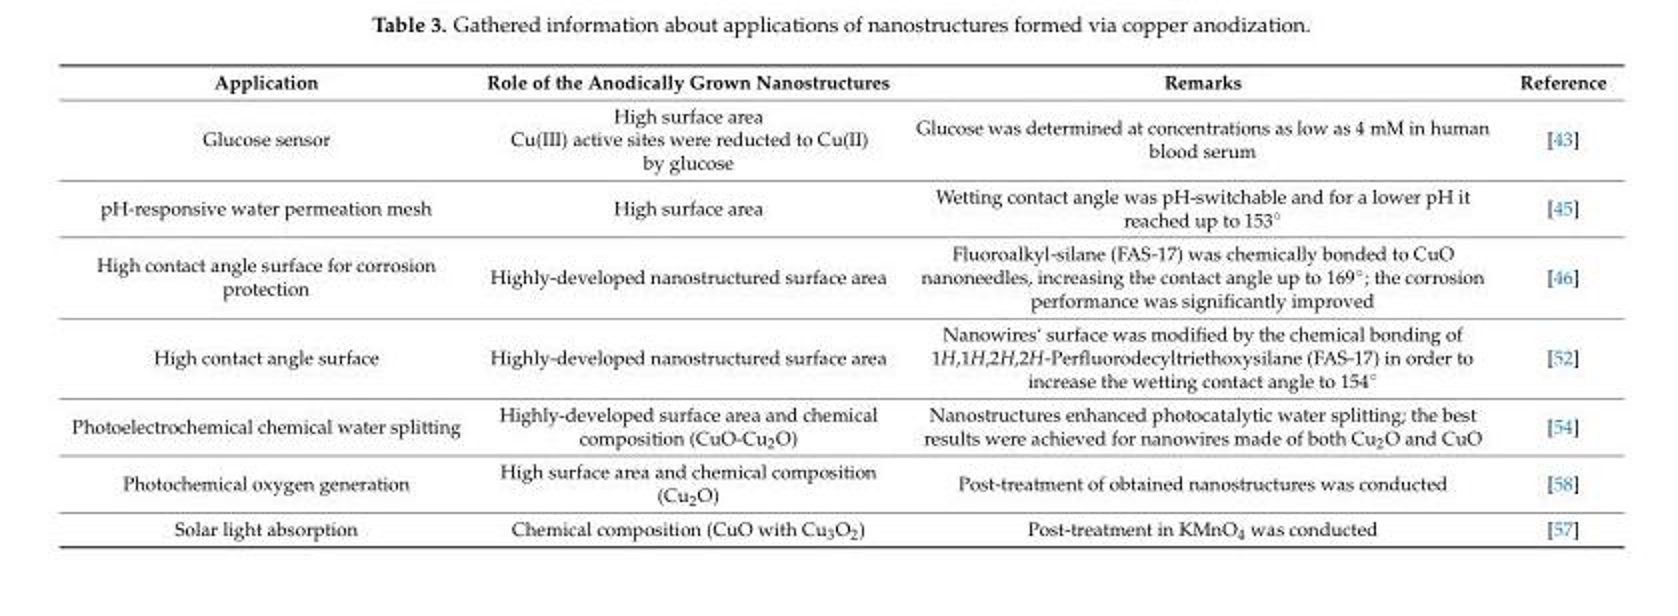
<table><thead><tr><td>Application</td><td>Role of the Anodically Grown Nanostructures</td><td>Remarks</td><td>Reference</td></tr></thead><tbody><tr><td>Glucose sensor</td><td>High surface area Cu(III) active sites were reducted to Cu(II) by glucose</td><td>Glucose was determined at concentrations as low as 4 mM in human blood serum</td><td>[43]</td></tr><tr><td>pH-responsive water permeation mesh</td><td>High surface area</td><td>Wetting contact angle was pH-switchable and for a lower pH it reached up to 153◦</td><td>[45]</td></tr><tr><td>High contact angle surface for corrosion protection</td><td>Highly-developed nanostructured surface area</td><td>Fluoroalkyl-silane (FAS-17) was chemically bonded to CuO nanoneedles, increasing the contact angle up to 169◦; the corrosion performance was significantly improved</td><td>[46]</td></tr><tr><td>High contact angle surface</td><td>Highly-developed nanostructured surface area</td><td>Nanowires‘ surface was modified by the chemical bonding of 1H,1H,2H,2H-Perfluorodecyltriethoxysilane (FAS-17) in order to increase the wetting contact angle to 154◦</td><td>[52]</td></tr><tr><td>Photoelectrochemical chemical water splitting</td><td>Highly-developed surface area and chemical composition (CuO-Cu<sub>2</sub>O)</td><td>Nanostructures enhanced photocatalytic water splitting; the best results were achieved for nanowires made of both Cu<sub>2</sub>O and CuO</td><td>[54]</td></tr><tr><td>Photochemical oxygen generation</td><td>High surface area and chemical composition (Cu<sub>2</sub>O)</td><td>Post-treatment of obtained nanostructures was conducted</td><td>[58]</td></tr><tr><td>Solar light absorption</td><td>Chemical composition (CuO with Cu<sub>3</sub>O<sub>2</sub>)</td><td>Post-treatment in KMnO<sub>4</sub> was conducted</td><td>[57]</td></tr></tbody></table>